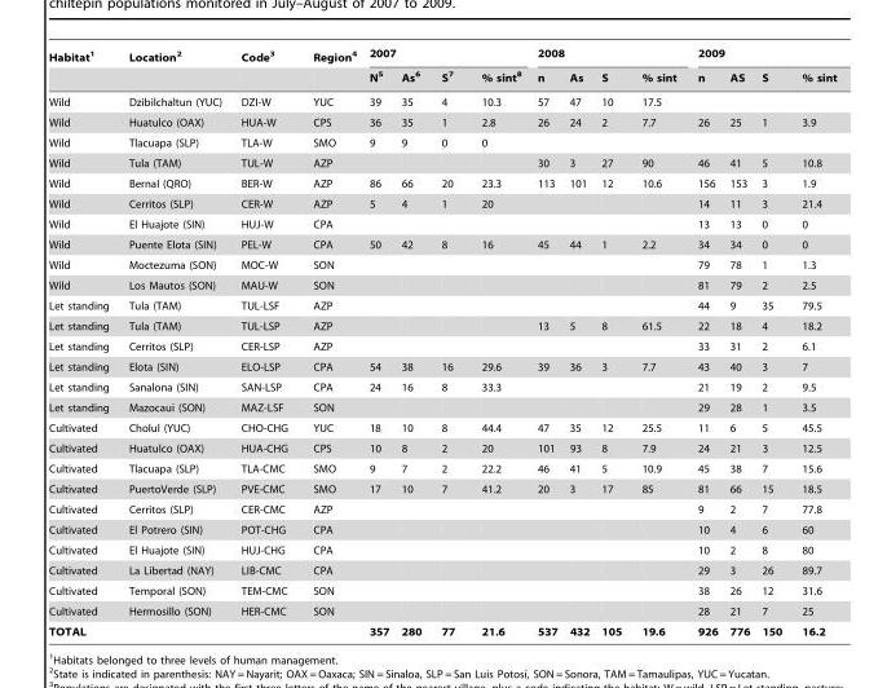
<table><thead><tr><td rowspan="2">Habitat<sup>1</sup></td><td rowspan="2">Location<sup>2</sup></td><td rowspan="2">Code<sup>3</sup></td><td rowspan="2">Region<sup>4</sup></td><td colspan="4">2007</td><td colspan="4">2008</td><td colspan="4">2009</td></tr><tr><td>N<sup>5</sup></td><td>As<sup>6</sup></td><td>S<sup>7</sup></td><td>% sint<sup>8</sup></td><td>n</td><td>As</td><td>S</td><td>% sint</td><td>n</td><td>AS</td><td>S</td><td>% sint</td></tr></thead><tbody><tr><td>Wild</td><td>Dzibilchaltun (YUC)</td><td>DZI-W</td><td>YUC</td><td>39</td><td>35</td><td>4</td><td>10.3</td><td>57</td><td>47</td><td>10</td><td>17.5</td><td></td><td></td><td></td><td></td></tr><tr><td>Wild</td><td>Huatulco (OAX)</td><td>HUA-W</td><td>CPS</td><td>36</td><td>35</td><td>1</td><td>2.8</td><td>26</td><td>24</td><td>2</td><td>7.7</td><td>26</td><td>25</td><td>1</td><td>3.9</td></tr><tr><td>Wild</td><td>Tlacuapa (SLP)</td><td>TLA-W</td><td>SMO</td><td>9</td><td>9</td><td>0</td><td>0</td><td></td><td></td><td></td><td></td><td></td><td></td><td></td><td></td></tr><tr><td>Wild</td><td>Tula (TAM)</td><td>TUL-W</td><td>AZP</td><td></td><td></td><td></td><td></td><td>30</td><td>3</td><td>27</td><td>90</td><td>46</td><td>41</td><td>5</td><td>10.8</td></tr><tr><td>Wild</td><td>Bernal (QRO)</td><td>BER-W</td><td>AZP</td><td>86</td><td>66</td><td>20</td><td>23.3</td><td>113</td><td>101</td><td>12</td><td>10.6</td><td>156</td><td>153</td><td>3</td><td>1.9</td></tr><tr><td>Wild</td><td>Cerritos (SLP)</td><td>CER-W</td><td>AZP</td><td>5</td><td>4</td><td>1</td><td>20</td><td></td><td></td><td></td><td></td><td>14</td><td>11</td><td>3</td><td>21.4</td></tr><tr><td>Wild</td><td>El Huajote (SIN)</td><td>HUJ-W</td><td>CPA</td><td></td><td></td><td></td><td></td><td></td><td></td><td></td><td></td><td>13</td><td>13</td><td>0</td><td>0</td></tr><tr><td>Wild</td><td>Puente Elota (SIN)</td><td>PEL-W</td><td>CPA</td><td>50</td><td>42</td><td>8</td><td>16</td><td>45</td><td>44</td><td>1</td><td>2.2</td><td>34</td><td>34</td><td>0</td><td>0</td></tr><tr><td>Wild</td><td>Moctezuma (SON)</td><td>MOC-W</td><td>SON</td><td></td><td></td><td></td><td></td><td></td><td></td><td></td><td></td><td>79</td><td>78</td><td>1</td><td>1.3</td></tr><tr><td>Wild</td><td>Los Mautos (SON)</td><td>MAU-W</td><td>SON</td><td></td><td></td><td></td><td></td><td></td><td></td><td></td><td></td><td>81</td><td>79</td><td>2</td><td>2.5</td></tr><tr><td>Let standing</td><td>Tula (TAM)</td><td>TUL-LSF</td><td>AZP</td><td></td><td></td><td></td><td></td><td></td><td></td><td></td><td></td><td>44</td><td>9</td><td>35</td><td>79.5</td></tr><tr><td>Let standing</td><td>Tula (TAM)</td><td>TUL-LSP</td><td>AZP</td><td></td><td></td><td></td><td></td><td>13</td><td>5</td><td>8</td><td>61.5</td><td>22</td><td>18</td><td>4</td><td>18.2</td></tr><tr><td>Let standing</td><td>Cerritos (SLP)</td><td>CER-LSP</td><td>AZP</td><td></td><td></td><td></td><td></td><td></td><td></td><td></td><td></td><td>33</td><td>31</td><td>2</td><td>6.1</td></tr><tr><td>Let standing</td><td>Elota (SIN)</td><td>ELO-LSP</td><td>CPA</td><td>54</td><td>38</td><td>16</td><td>29.6</td><td>39</td><td>36</td><td>3</td><td>7.7</td><td>43</td><td>40</td><td>3</td><td>7</td></tr><tr><td>Let standing</td><td>Sanalona (SIN)</td><td>SAN-LSP</td><td>CPA</td><td>24</td><td>16</td><td>8</td><td>33.3</td><td></td><td></td><td></td><td></td><td>21</td><td>19</td><td>2</td><td>9.5</td></tr><tr><td>Let standing</td><td>Mazocaui (SON)</td><td>MAZ-LSF</td><td>SON</td><td></td><td></td><td></td><td></td><td></td><td></td><td></td><td></td><td>29</td><td>28</td><td>1</td><td>3.5</td></tr><tr><td>Cultivated</td><td>Cholul (YUC)</td><td>CHO-CHG</td><td>YUC</td><td>18</td><td>10</td><td>8</td><td>44.4</td><td>47</td><td>35</td><td>12</td><td>25.5</td><td>11</td><td>6</td><td>5</td><td>45.5</td></tr><tr><td>Cultivated</td><td>Huatulco (OAX)</td><td>HUA-CHG</td><td>CPS</td><td>10</td><td>8</td><td>2</td><td>20</td><td>101</td><td>93</td><td>8</td><td>7.9</td><td>24</td><td>21</td><td>3</td><td>12.5</td></tr><tr><td>Cultivated</td><td>Tlacuapa (SLP)</td><td>TLA-CMC</td><td>SMO</td><td>9</td><td>7</td><td>2</td><td>22.2</td><td>46</td><td>41</td><td>5</td><td>10.9</td><td>45</td><td>38</td><td>7</td><td>15.6</td></tr><tr><td>Cultivated</td><td>PuertoVerde (SLP)</td><td>PVE-CMC</td><td>SMO</td><td>17</td><td>10</td><td>7</td><td>41.2</td><td>20</td><td>3</td><td>17</td><td>85</td><td>81</td><td>66</td><td>15</td><td>18.5</td></tr><tr><td>Cultivated</td><td>Cerritos (SLP)</td><td>CER-CMC</td><td>AZP</td><td></td><td></td><td></td><td></td><td></td><td></td><td></td><td></td><td>9</td><td>2</td><td>7</td><td>77.8</td></tr><tr><td>Cultivated</td><td>El Potrero (SIN)</td><td>POT-CHG</td><td>CPA</td><td></td><td></td><td></td><td></td><td></td><td></td><td></td><td></td><td>10</td><td>4</td><td>6</td><td>60</td></tr><tr><td>Cultivated</td><td>El Huajote (SIN)</td><td>HUJ-CHG</td><td>CPA</td><td></td><td></td><td></td><td></td><td></td><td></td><td></td><td></td><td>10</td><td>2</td><td>8</td><td>80</td></tr><tr><td>Cultivated</td><td>La Libertad (NAY)</td><td>LIB-CMC</td><td>CPA</td><td></td><td></td><td></td><td></td><td></td><td></td><td></td><td></td><td>29</td><td>3</td><td>26</td><td>89.7</td></tr><tr><td>Cultivated</td><td>Temporal (SON)</td><td>TEM-CMC</td><td>SON</td><td></td><td></td><td></td><td></td><td></td><td></td><td></td><td></td><td>38</td><td>26</td><td>12</td><td>31.6</td></tr><tr><td>Cultivated</td><td>Hermosillo (SON)</td><td>HER-CMC</td><td>SON</td><td></td><td></td><td></td><td></td><td></td><td></td><td></td><td></td><td>28</td><td>21</td><td>7</td><td>25</td></tr><tr><td>TOTAL</td><td></td><td></td><td></td><td>357</td><td>280</td><td>77</td><td>21.6</td><td>537</td><td>432</td><td>105</td><td>19.6</td><td>926</td><td>776</td><td>150</td><td>16.2</td></tr></tbody></table>